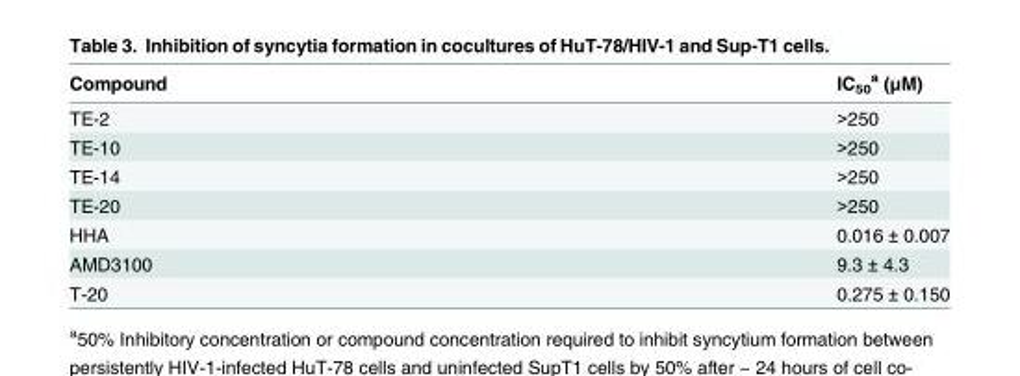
<table><thead><tr><td>Compound</td><td>IC<sub>50</sub> <sup>a</sup> (μM)</td></tr></thead><tbody><tr><td>TE-2</td><td>&gt;250</td></tr><tr><td>TE-10</td><td>&gt;250</td></tr><tr><td>TE-14</td><td>&gt;250</td></tr><tr><td>TE-20</td><td>&gt;250</td></tr><tr><td>HHA</td><td>0.016 ± 0.007</td></tr><tr><td>AMD3100</td><td>9.3 ± 4.3</td></tr><tr><td>T-20</td><td>0.275 ± 0.150</td></tr></tbody></table>